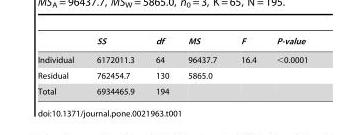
<table><thead><tr><td></td><td>SS</td><td>df</td><td>MS</td><td>F</td><td>P-value</td></tr></thead><tbody><tr><td>Individual</td><td>6172011.3</td><td>64</td><td>96437.7</td><td>16.4</td><td>&lt;0.0001</td></tr><tr><td>Residual</td><td>762454.7</td><td>130</td><td>5865.0</td><td></td><td></td></tr><tr><td>Total</td><td>6934465.9</td><td>194</td><td></td><td></td><td></td></tr></tbody></table>